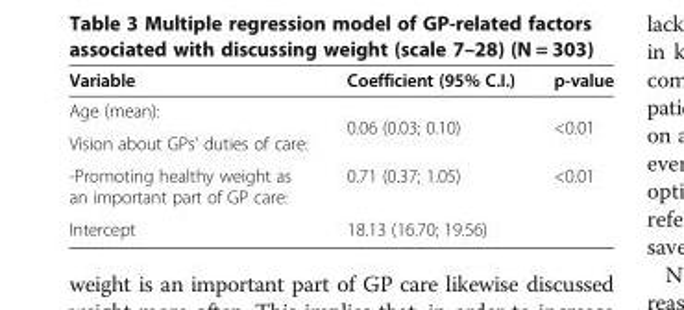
<table><thead><tr><td>Variable</td><td>Coefficient (95% C.I.)</td><td>p-value</td></tr></thead><tbody><tr><td>Age (mean):</td><td rowspan="2">0.06 (0.03; 0.10)</td><td rowspan="2">&lt;0.01</td></tr><tr><td>Vision about GPs’ duties of care:</td></tr><tr><td>-Promoting healthy weight as an important part of GP care:</td><td>0.71 (0.37; 1.05)</td><td>&lt;0.01</td></tr><tr><td>Intercept</td><td>18.13 (16.70; 19.56)</td><td></td></tr></tbody></table>